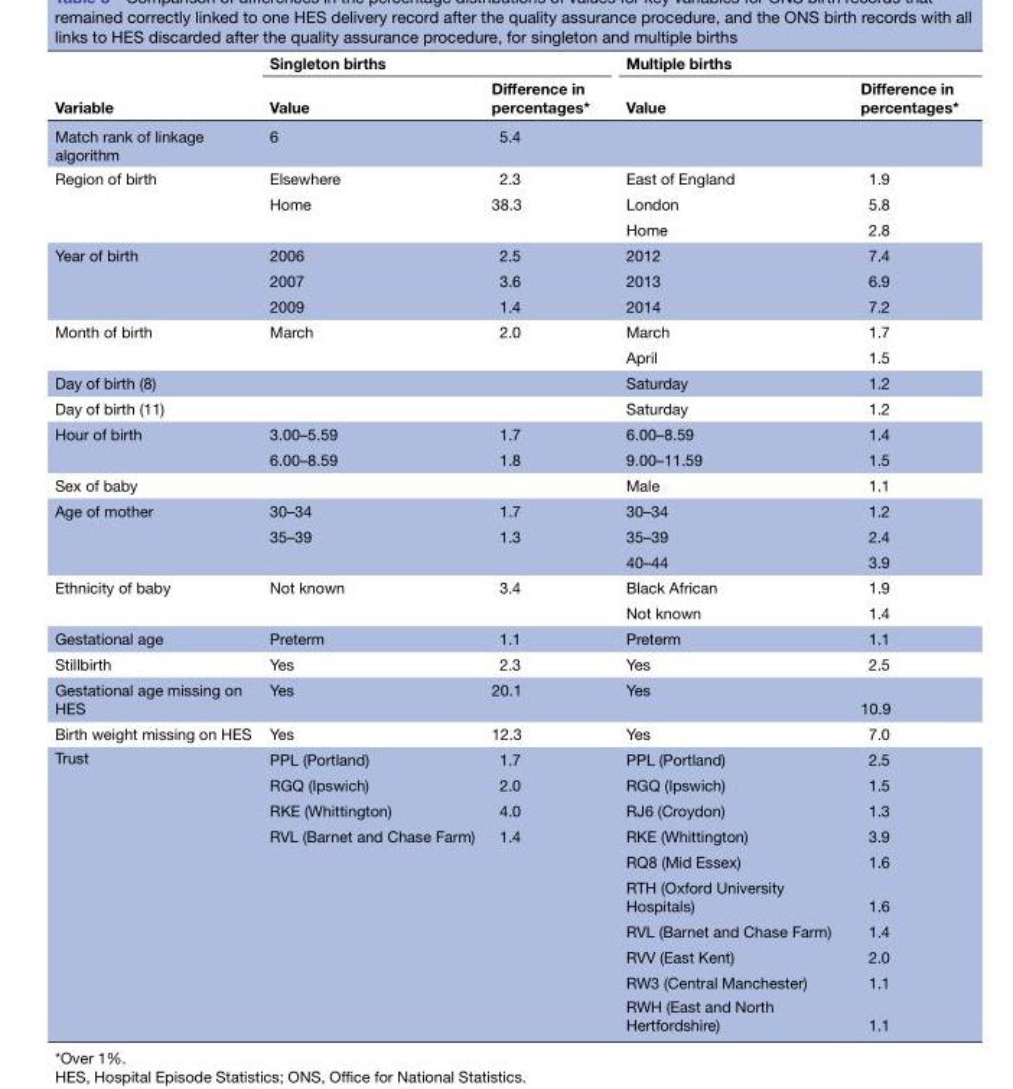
<table><thead><tr><td rowspan="2">Variable</td><td colspan="2">Singleton births</td><td colspan="2">Multiple births</td></tr><tr><td>Value</td><td>Difference in percentages*</td><td>Value</td><td>Difference in percentages*</td></tr></thead><tbody><tr><td>Match rank of linkage algorithm</td><td>6</td><td>5.4</td><td></td><td></td></tr><tr><td rowspan="3">Region of birth</td><td>Elsewhere</td><td>2.3</td><td>East of England</td><td>1.9</td></tr><tr><td>Home</td><td>38.3</td><td>London</td><td>5.8</td></tr><tr><td></td><td></td><td>Home</td><td>2.8</td></tr><tr><td rowspan="3">Year of birth</td><td>2006</td><td>2.5</td><td>2012</td><td>7.4</td></tr><tr><td>2007</td><td>3.6</td><td>2013</td><td>6.9</td></tr><tr><td>2009</td><td>1.4</td><td>2014</td><td>7.2</td></tr><tr><td rowspan="2">Month of birth</td><td rowspan="2">March</td><td rowspan="2">2.0</td><td>March</td><td>1.7</td></tr><tr><td>April</td><td>1.5</td></tr><tr><td>Day of birth (8)</td><td></td><td></td><td>Saturday</td><td>1.2</td></tr><tr><td>Day of birth (11)</td><td></td><td></td><td>Saturday</td><td>1.2</td></tr><tr><td rowspan="2">Hour of birth</td><td>3.00–5.59</td><td>1.7</td><td>6.00–8.59</td><td>1.4</td></tr><tr><td>6.00–8.59</td><td>1.8</td><td>9.00–11.59</td><td>1.5</td></tr><tr><td>Sex of baby</td><td></td><td></td><td>Male</td><td>1.1</td></tr><tr><td rowspan="3">Age of mother</td><td>30–34</td><td>1.7</td><td>30–34</td><td>1.2</td></tr><tr><td>35–39</td><td>1.3</td><td>35–39</td><td>2.4</td></tr><tr><td></td><td></td><td>40–44</td><td>3.9</td></tr><tr><td rowspan="2">Ethnicity of baby</td><td rowspan="2">Not known</td><td rowspan="2">3.4</td><td>Black African</td><td>1.9</td></tr><tr><td>Not known</td><td>1.4</td></tr><tr><td>Gestational age</td><td>Preterm</td><td>1.1</td><td>Preterm</td><td>1.1</td></tr><tr><td>Stillbirth</td><td>Yes</td><td>2.3</td><td>Yes</td><td>2.5</td></tr><tr><td>Gestational age missing on HES</td><td>Yes</td><td>20.1</td><td>Yes</td><td>10.9</td></tr><tr><td>Birth weight missing on HES</td><td>Yes</td><td>12.3</td><td>Yes</td><td>7.0</td></tr><tr><td rowspan="10">Trust</td><td>PPL (Portland)</td><td>1.7</td><td>PPL (Portland)</td><td>2.5</td></tr><tr><td>RGQ (Ipswich)</td><td>2.0</td><td>RGQ (Ipswich)</td><td>1.5</td></tr><tr><td>RKE (Whittington)</td><td>4.0</td><td>RJ6 (Croydon)</td><td>1.3</td></tr><tr><td>RVL (Barnet and Chase Farm)</td><td>1.4</td><td>RKE (Whittington)</td><td>3.9</td></tr><tr><td></td><td></td><td>RQ8 (Mid Essex)</td><td>1.6</td></tr><tr><td></td><td></td><td>RTH (Oxford University Hospitals)</td><td>1.6</td></tr><tr><td></td><td></td><td>RVL (Barnet and Chase Farm)</td><td>1.4</td></tr><tr><td></td><td></td><td>RVV (East Kent)</td><td>2.0</td></tr><tr><td></td><td></td><td>RW3 (Central Manchester)</td><td>1.1</td></tr><tr><td></td><td></td><td>RWH (East and North Hertfordshire)</td><td>1.1</td></tr></tbody></table>